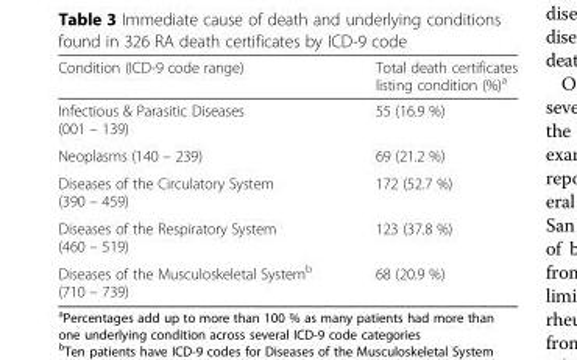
<table><thead><tr><td>Condition (ICD-9 code range)</td><td>Total death certificates listing condition (%)<sup>a</sup></td></tr></thead><tbody><tr><td>Infectious &amp; Parasitic Diseases (001 – 139)</td><td>55 (16.9 %)</td></tr><tr><td>Neoplasms (140 – 239)</td><td>69 (21.2 %)</td></tr><tr><td>Diseases of the Circulatory System (390 – 459)</td><td>172 (52.7 %)</td></tr><tr><td>Diseases of the Respiratory System (460 – 519)</td><td>123 (37.8 %)</td></tr><tr><td>Diseases of the Musculoskeletal System<sup>b</sup> (710 – 739)</td><td>68 (20.9 %)</td></tr></tbody></table>